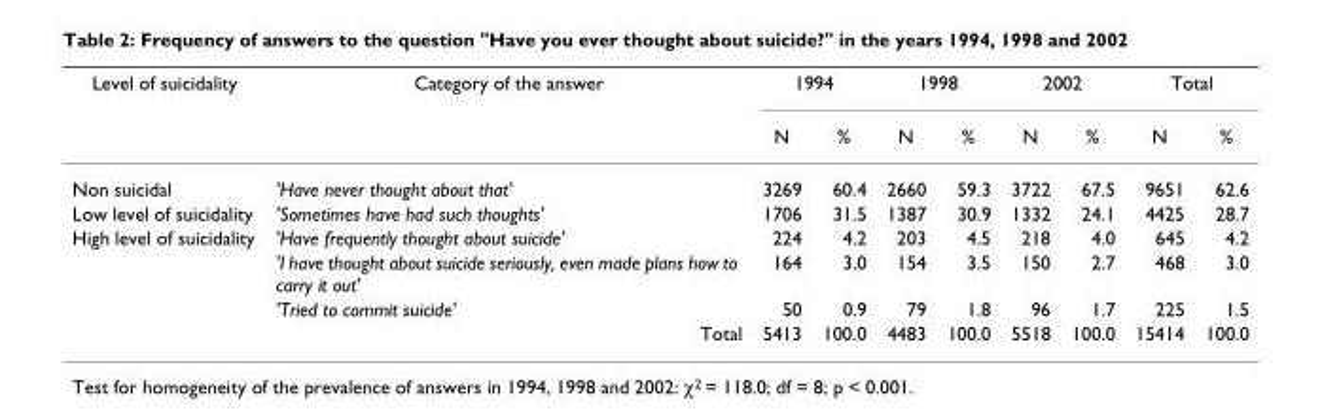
<table><thead><tr><td rowspan="2">Level of suicidality</td><td rowspan="2">Category of the answer</td><td colspan="2">1994</td><td colspan="2">1998</td><td colspan="2">2002</td><td colspan="2">Total</td></tr><tr><td>N</td><td>%</td><td>N</td><td>%</td><td>N</td><td>%</td><td>N</td><td>%</td></tr></thead><tbody><tr><td>Non suicidal</td><td>&#x27;Have never thought about that&#x27;</td><td>3269</td><td>60.4</td><td>2660</td><td>59.3</td><td>3722</td><td>67.5</td><td>9651</td><td>62.6</td></tr><tr><td>Low level of suicidality</td><td>&#x27;Sometimes have had such thoughts&#x27;</td><td>1706</td><td>31.5</td><td>1387</td><td>30.9</td><td>1332</td><td>24.1</td><td>4425</td><td>28.7</td></tr><tr><td rowspan="3">High level of suicidality</td><td>&#x27;Have frequently thought about suicide&#x27;</td><td>224</td><td>4.2</td><td>203</td><td>4.5</td><td>218</td><td>4.0</td><td>645</td><td>4.2</td></tr><tr><td>&#x27;I have thought about suicide seriously, even made plans how to carry it out&#x27;</td><td>164</td><td>3.0</td><td>154</td><td>3.5</td><td>150</td><td>2.7</td><td>468</td><td>3.0</td></tr><tr><td>&#x27;Tried to commit suicide&#x27;</td><td>50</td><td>0.9</td><td>79</td><td>1.8</td><td>96</td><td>1.7</td><td>225</td><td>1.5</td></tr><tr><td colspan="2">Total</td><td>5413</td><td>100.0</td><td>4483</td><td>100.0</td><td>5518</td><td>100.0</td><td>15414</td><td>100.0</td></tr></tbody></table>